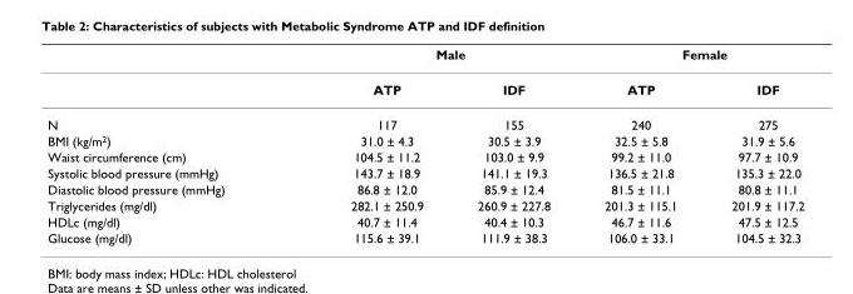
<table><thead><tr><td rowspan="2"></td><td colspan="2">Male</td><td colspan="2">Female</td></tr><tr><td>ATP</td><td>IDF</td><td>ATP</td><td>IDF</td></tr></thead><tbody><tr><td>N</td><td>117</td><td>155</td><td>240</td><td>275</td></tr><tr><td>BMI (kg/m<sup>2</sup>)</td><td>31.0 ± 4.3</td><td>30.5 ± 3.9</td><td>32.5 ± 5.8</td><td>31.9 ± 5.6</td></tr><tr><td>Waist circumference (cm)</td><td>104.5 ± 11.2</td><td>103.0 ± 9.9</td><td>99.2 ± 11.0</td><td>97.7 ± 10.9</td></tr><tr><td>Systolic blood pressure (mmHg)</td><td>143.7 ± 18.9</td><td>141.1 ± 19.3</td><td>136.5 ± 21.8</td><td>135.3 ± 22.0</td></tr><tr><td>Diastolic blood pressure (mmHg)</td><td>86.8 ± 12.0</td><td>85.9 ± 12.4</td><td>81.5 ± 11.1</td><td>80.8 ± 11.1</td></tr><tr><td>Triglycerides (mg/dl)</td><td>282.1 ± 250.9</td><td>260.9 ± 227.8</td><td>201.3 ± 115.1</td><td>201.9 ± 117.2</td></tr><tr><td>HDLc (mg/dl)</td><td>40.7 ± 11.4</td><td>40.4 ± 10.3</td><td>46.7 ± 11.6</td><td>47.5 ± 12.5</td></tr><tr><td>Glucose (mg/dl)</td><td>115.6 ± 39.1</td><td>111.9 ± 38.3</td><td>106.0 ± 33.1</td><td>104.5 ± 32.3</td></tr></tbody></table>